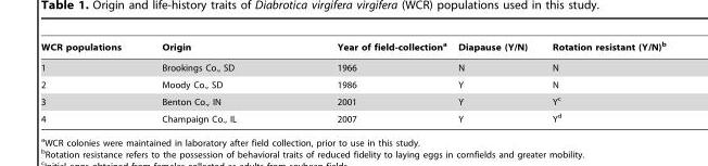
<table><thead><tr><td>WCR populations</td><td>Origin</td><td>Year of field-collection<sup>a</sup></td><td>Diapause (Y/N)</td><td>Rotation resistant (Y/N)<sup>b</sup></td></tr></thead><tbody><tr><td>1</td><td>Brookings Co., SD</td><td>1966</td><td>N</td><td>N</td></tr><tr><td>2</td><td>Moody Co., SD</td><td>1986</td><td>Y</td><td>N</td></tr><tr><td>3</td><td>Benton Co., IN</td><td>2001</td><td>Y</td><td>Y<sup>c</sup></td></tr><tr><td>4</td><td>Champaign Co., IL</td><td>2007</td><td>Y</td><td>Y<sup>d</sup></td></tr></tbody></table>